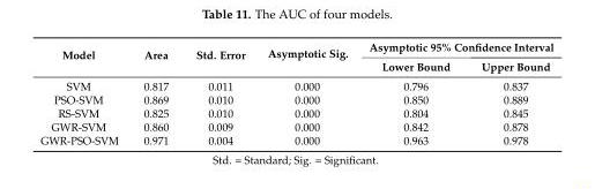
<table><thead><tr><td rowspan="2">Model</td><td rowspan="2">Area</td><td rowspan="2">Std. Error</td><td rowspan="2">Asymptotic Sig.</td><td colspan="2">Asymptotic 95% Confidence Interval</td></tr><tr><td>Lower Bound</td><td>Upper Bound</td></tr></thead><tbody><tr><td>SVM</td><td>0.817</td><td>0.011</td><td>0.000</td><td>0.796</td><td>0.837</td></tr><tr><td>PSO-SVM</td><td>0.869</td><td>0.010</td><td>0.000</td><td>0.850</td><td>0.889</td></tr><tr><td>RS-SVM</td><td>0.825</td><td>0.010</td><td>0.000</td><td>0.804</td><td>0.845</td></tr><tr><td>GWR-SVM</td><td>0.860</td><td>0.009</td><td>0.000</td><td>0.842</td><td>0.878</td></tr><tr><td>GWR-PSO-SVM</td><td>0.971</td><td>0.004</td><td>0.000</td><td>0.963</td><td>0.978</td></tr></tbody></table>